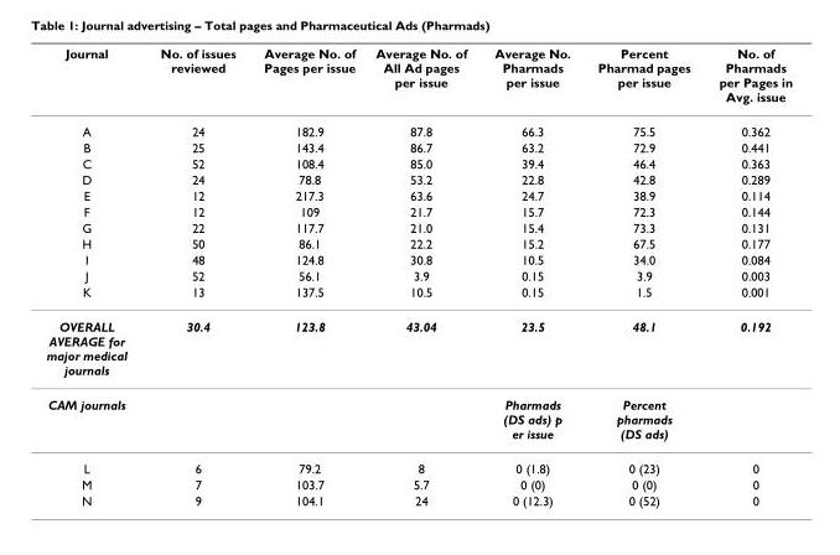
<table><thead><tr><td>Journal</td><td>No. of issues reviewed</td><td>Average No. of Pages per issue</td><td>Average No. of All Ad pages per issue</td><td>Average No. Pharmads per issue</td><td>Percent Pharmad pages per issue</td><td>No. of Pharmads per Pages in Avg. issue</td></tr></thead><tbody><tr><td>A</td><td>24</td><td>182.9</td><td>87.8</td><td>66.3</td><td>75.5</td><td>0.362</td></tr><tr><td>B</td><td>25</td><td>143.4</td><td>86.7</td><td>63.2</td><td>72.9</td><td>0.441</td></tr><tr><td>C</td><td>52</td><td>108.4</td><td>85.0</td><td>39.4</td><td>46.4</td><td>0.363</td></tr><tr><td>D</td><td>24</td><td>78.8</td><td>53.2</td><td>22.8</td><td>42.8</td><td>0.289</td></tr><tr><td>E</td><td>12</td><td>217.3</td><td>63.6</td><td>24.7</td><td>38.9</td><td>0.114</td></tr><tr><td>F</td><td>12</td><td>109</td><td>21.7</td><td>15.7</td><td>72.3</td><td>0.144</td></tr><tr><td>G</td><td>22</td><td>117.7</td><td>21.0</td><td>15.4</td><td>73.3</td><td>0.131</td></tr><tr><td>H</td><td>50</td><td>86.1</td><td>22.2</td><td>15.2</td><td>67.5</td><td>0.177</td></tr><tr><td>I</td><td>48</td><td>124.8</td><td>30.8</td><td>10.5</td><td>34.0</td><td>0.084</td></tr><tr><td>J</td><td>52</td><td>56.1</td><td>3.9</td><td>0.15</td><td>3.9</td><td>0.003</td></tr><tr><td>K</td><td>13</td><td>137.5</td><td>10.5</td><td>0.15</td><td>1.5</td><td>0.001</td></tr><tr><td>OVERALL AVERAGE for major medical journals</td><td>30.4</td><td>123.8</td><td>43.04</td><td>23.5</td><td>48.1</td><td>0.192</td></tr><tr><td>CAM journals</td><td></td><td></td><td></td><td>Pharmads (DS ads) p er issue</td><td>Percent pharmads (DS ads)</td><td></td></tr><tr><td>L</td><td>6</td><td>79.2</td><td>8</td><td>0 (1.8)</td><td>0 (23)</td><td>0</td></tr><tr><td>M</td><td>7</td><td>103.7</td><td>5.7</td><td>0 (0)</td><td>0 (0)</td><td>0</td></tr><tr><td>N</td><td>9</td><td>104.1</td><td>24</td><td>0 (12.3)</td><td>0 (52)</td><td>0</td></tr></tbody></table>